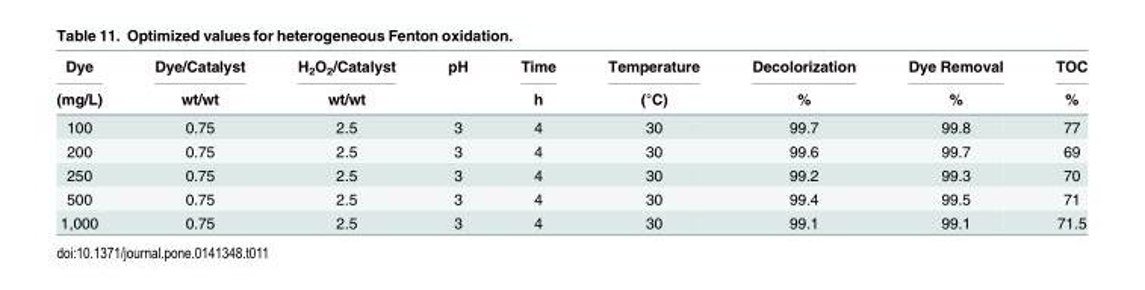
<table><thead><tr><td rowspan="2">Dye (mg/L)</td><td rowspan="2">Dye/Catalyst wt/wt</td><td rowspan="2">H<sub>2</sub>O<sub>2</sub>/Catalyst wt/wt</td><td rowspan="2">pH</td><td rowspan="2">Time h</td><td rowspan="2">Temperature (°C)</td><td rowspan="2">Decolorization %</td><td rowspan="2">Dye Removal %</td><td rowspan="2">TOC %</td></tr><tr></tr></thead><tbody><tr><td>100</td><td>0.75</td><td>2.5</td><td>3</td><td>4</td><td>30</td><td>99.7</td><td>99.8</td><td>77</td></tr><tr><td>200</td><td>0.75</td><td>2.5</td><td>3</td><td>4</td><td>30</td><td>99.6</td><td>99.7</td><td>69</td></tr><tr><td>250</td><td>0.75</td><td>2.5</td><td>3</td><td>4</td><td>30</td><td>99.2</td><td>99.3</td><td>70</td></tr><tr><td>500</td><td>0.75</td><td>2.5</td><td>3</td><td>4</td><td>30</td><td>99.4</td><td>99.5</td><td>71</td></tr><tr><td>1,000</td><td>0.75</td><td>2.5</td><td>3</td><td>4</td><td>30</td><td>99.1</td><td>99.1</td><td>71.5</td></tr></tbody></table>